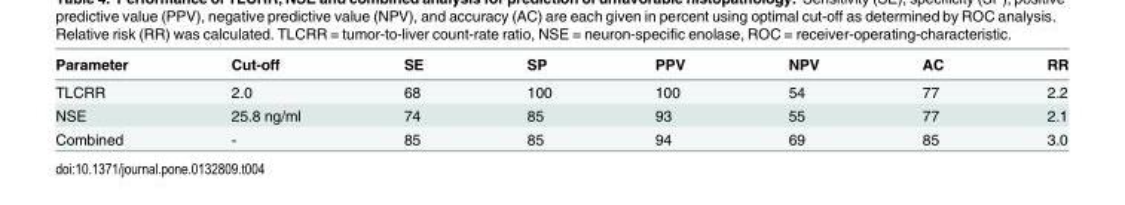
<table><thead><tr><td>Parameter</td><td>Cut-off</td><td>SE</td><td>SP</td><td>PPV</td><td>NPV</td><td>AC</td><td>RR</td></tr></thead><tbody><tr><td>TLCRR</td><td>2.0</td><td>68</td><td>100</td><td>100</td><td>54</td><td>77</td><td>2.2</td></tr><tr><td>NSE</td><td>25.8 ng/ml</td><td>74</td><td>85</td><td>93</td><td>55</td><td>77</td><td>2.1</td></tr><tr><td>Combined</td><td>-</td><td>85</td><td>85</td><td>94</td><td>69</td><td>85</td><td>3.0</td></tr></tbody></table>